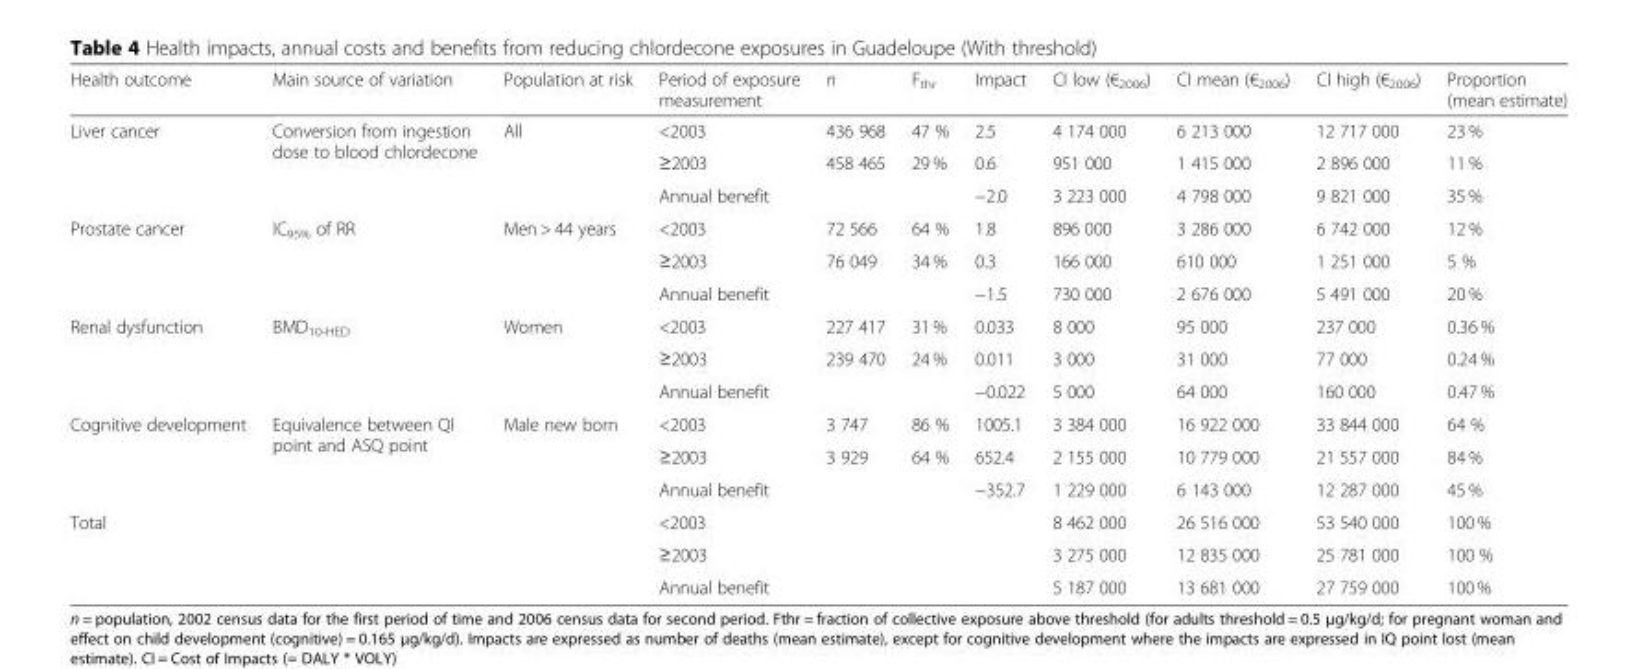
<table><thead><tr><td>Health outcome</td><td>Main source of variation</td><td>Population at risk</td><td>Period of exposure measurement</td><td>n</td><td>F<sub>thr</sub></td><td>Impact</td><td>CI low (€<sub>2006</sub>)</td><td>CI mean (€<sub>2006</sub>)</td><td>CI high (€<sub>2006</sub>)</td><td>Proportion (mean estimate)</td></tr></thead><tbody><tr><td rowspan="3">Liver cancer</td><td rowspan="3">Conversion from ingestion dose to blood chlordecone</td><td rowspan="3">All</td><td>&lt;2003</td><td>436 968</td><td>47 %</td><td>2.5</td><td>4 174 000</td><td>6 213 000</td><td>12 717 000</td><td>23 %</td></tr><tr><td>≥2003</td><td>458 465</td><td>29 %</td><td>0.6</td><td>951 000</td><td>1 415 000</td><td>2 896 000</td><td>11 %</td></tr><tr><td>Annual benefit</td><td></td><td></td><td>−2.0</td><td>3 223 000</td><td>4 798 000</td><td>9 821 000</td><td>35 %</td></tr><tr><td rowspan="3">Prostate cancer</td><td rowspan="3">IC<sub>95%</sub> of RR</td><td rowspan="3">Men &gt; 44 years</td><td>&lt;2003</td><td>72 566</td><td>64 %</td><td>1.8</td><td>896 000</td><td>3 286 000</td><td>6 742 000</td><td>12 %</td></tr><tr><td>≥2003</td><td>76 049</td><td>34 %</td><td>0.3</td><td>166 000</td><td>610 000</td><td>1 251 000</td><td>5 %</td></tr><tr><td>Annual benefit</td><td></td><td></td><td>−1.5</td><td>730 000</td><td>2 676 000</td><td>5 491 000</td><td>20 %</td></tr><tr><td rowspan="3">Renal dysfunction</td><td rowspan="3">BMD<sub>10-HED</sub></td><td rowspan="3">Women</td><td>&lt;2003</td><td>227 417</td><td>31 %</td><td>0.033</td><td>8 000</td><td>95 000</td><td>237 000</td><td>0.36 %</td></tr><tr><td>≥2003</td><td>239 470</td><td>24 %</td><td>0.011</td><td>3 000</td><td>31 000</td><td>77 000</td><td>0.24 %</td></tr><tr><td>Annual benefit</td><td></td><td></td><td>−0.022</td><td>5 000</td><td>64 000</td><td>160 000</td><td>0.47 %</td></tr><tr><td rowspan="3">Cognitive development</td><td rowspan="3">Equivalence between QI point and ASQ point</td><td rowspan="3">Male new born</td><td>&lt;2003</td><td>3 747</td><td>86 %</td><td>1005.1</td><td>3 384 000</td><td>16 922 000</td><td>33 844 000</td><td>64 %</td></tr><tr><td>≥2003</td><td>3 929</td><td>64 %</td><td>652.4</td><td>2 155 000</td><td>10 779 000</td><td>21 557 000</td><td>84 %</td></tr><tr><td>Annual benefit</td><td></td><td></td><td>−352.7</td><td>1 229 000</td><td>6 143 000</td><td>12 287 000</td><td>45 %</td></tr><tr><td rowspan="3">Total</td><td rowspan="3"></td><td rowspan="3"></td><td>&lt;2003</td><td></td><td></td><td></td><td>8 462 000</td><td>26 516 000</td><td>53 540 000</td><td>100 %</td></tr><tr><td>≥2003</td><td></td><td></td><td></td><td>3 275 000</td><td>12 835 000</td><td>25 781 000</td><td>100 %</td></tr><tr><td>Annual benefit</td><td></td><td></td><td></td><td>5 187 000</td><td>13 681 000</td><td>27 759 000</td><td>100 %</td></tr></tbody></table>